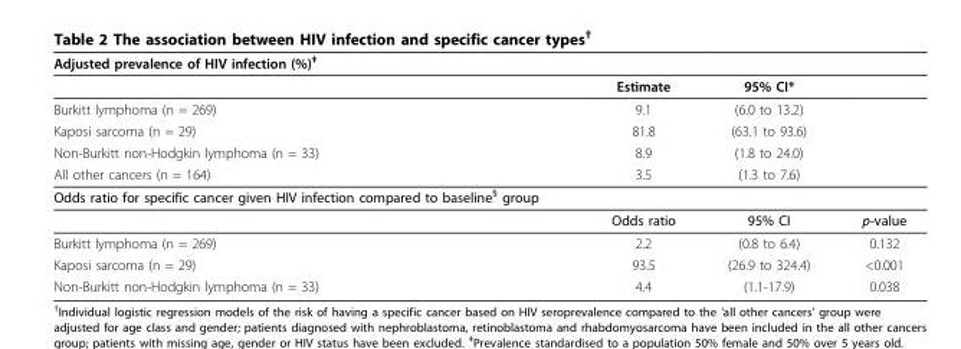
<table><thead><tr><td colspan="4">Adjusted prevalence of HIV infection (%)<sup>‡</sup></td></tr><tr><td></td><td>Estimate</td><td>95% CI*</td><td></td></tr></thead><tbody><tr><td>Burkitt lymphoma (n = 269)</td><td>9.1</td><td>(6.0 to 13.2)</td><td></td></tr><tr><td>Kaposi sarcoma (n = 29)</td><td>81.8</td><td>(63.1 to 93.6)</td><td></td></tr><tr><td>Non-Burkitt non-Hodgkin lymphoma (n = 33)</td><td>8.9</td><td>(1.8 to 24.0)</td><td></td></tr><tr><td>All other cancers (n = 164)</td><td>3.5</td><td>(1.3 to 7.6)</td><td></td></tr><tr><td colspan="4">Odds ratio for specific cancer given HIV infection compared to baseline<sup>§</sup> group</td></tr><tr><td></td><td>Odds ratio</td><td>95% CI</td><td>p-value</td></tr><tr><td>Burkitt lymphoma (n = 269)</td><td>2.2</td><td>(0.8 to 6.4)</td><td>0.132</td></tr><tr><td>Kaposi sarcoma (n = 29)</td><td>93.5</td><td>(26.9 to 324.4)</td><td>&lt;0.001</td></tr><tr><td>Non-Burkitt non-Hodgkin lymphoma (n = 33)</td><td>4.4</td><td>(1.1-17.9)</td><td>0.038</td></tr></tbody></table>